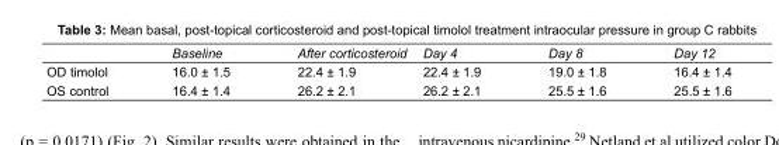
<table><thead><tr><td></td><td>Baseline</td><td>After corticosteroid</td><td>Day 4</td><td>Day 8</td><td>Day 12</td></tr></thead><tbody><tr><td>OD timolol</td><td>16.0 ± 1.5</td><td>22.4 ± 1.9</td><td>22.4 ± 1.9</td><td>19.0 ± 1.8</td><td>16.4 ± 1.4</td></tr><tr><td>OS control</td><td>16.4 ± 1.4</td><td>26.2 ± 2.1</td><td>26.2 ± 2.1</td><td>25.5 ± 1.6</td><td>25.5 ± 1.6</td></tr></tbody></table>